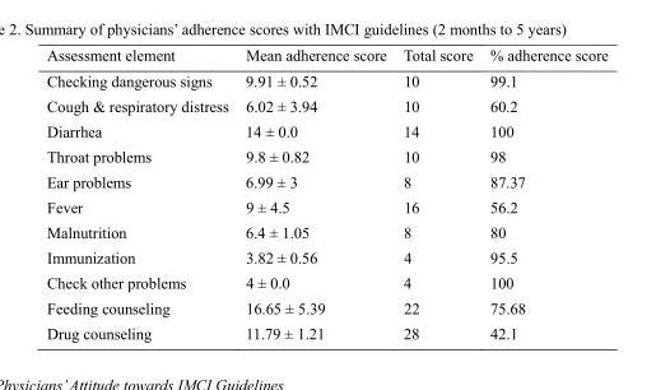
<table><thead><tr><td>Assessment element</td><td>Mean adherence score</td><td>Total score</td><td>% adherence score</td></tr></thead><tbody><tr><td>Checking dangerous signs</td><td>9.91 ± 0.52</td><td>10</td><td>99.1</td></tr><tr><td>Cough &amp; respiratory distress</td><td>6.02 ± 3.94</td><td>10</td><td>60.2</td></tr><tr><td>Diarrhea</td><td>14 ± 0.0</td><td>14</td><td>100</td></tr><tr><td>Throat problems</td><td>9.8 ± 0.82</td><td>10</td><td>98</td></tr><tr><td>Ear problems</td><td>6.99 ± 3</td><td>8</td><td>87.37</td></tr><tr><td>Fever</td><td>9 ± 4.5</td><td>16</td><td>56.2</td></tr><tr><td>Malnutrition</td><td>6.4 ± 1.05</td><td>8</td><td>80</td></tr><tr><td>Immunization</td><td>3.82 ± 0.56</td><td>4</td><td>95.5</td></tr><tr><td>Check other problems</td><td>4 ± 0.0</td><td>4</td><td>100</td></tr><tr><td>Feeding counseling</td><td>16.65 ± 5.39</td><td>22</td><td>75.68</td></tr><tr><td>Drug counseling</td><td>11.79 ± 1.21</td><td>28</td><td>42.1</td></tr></tbody></table>